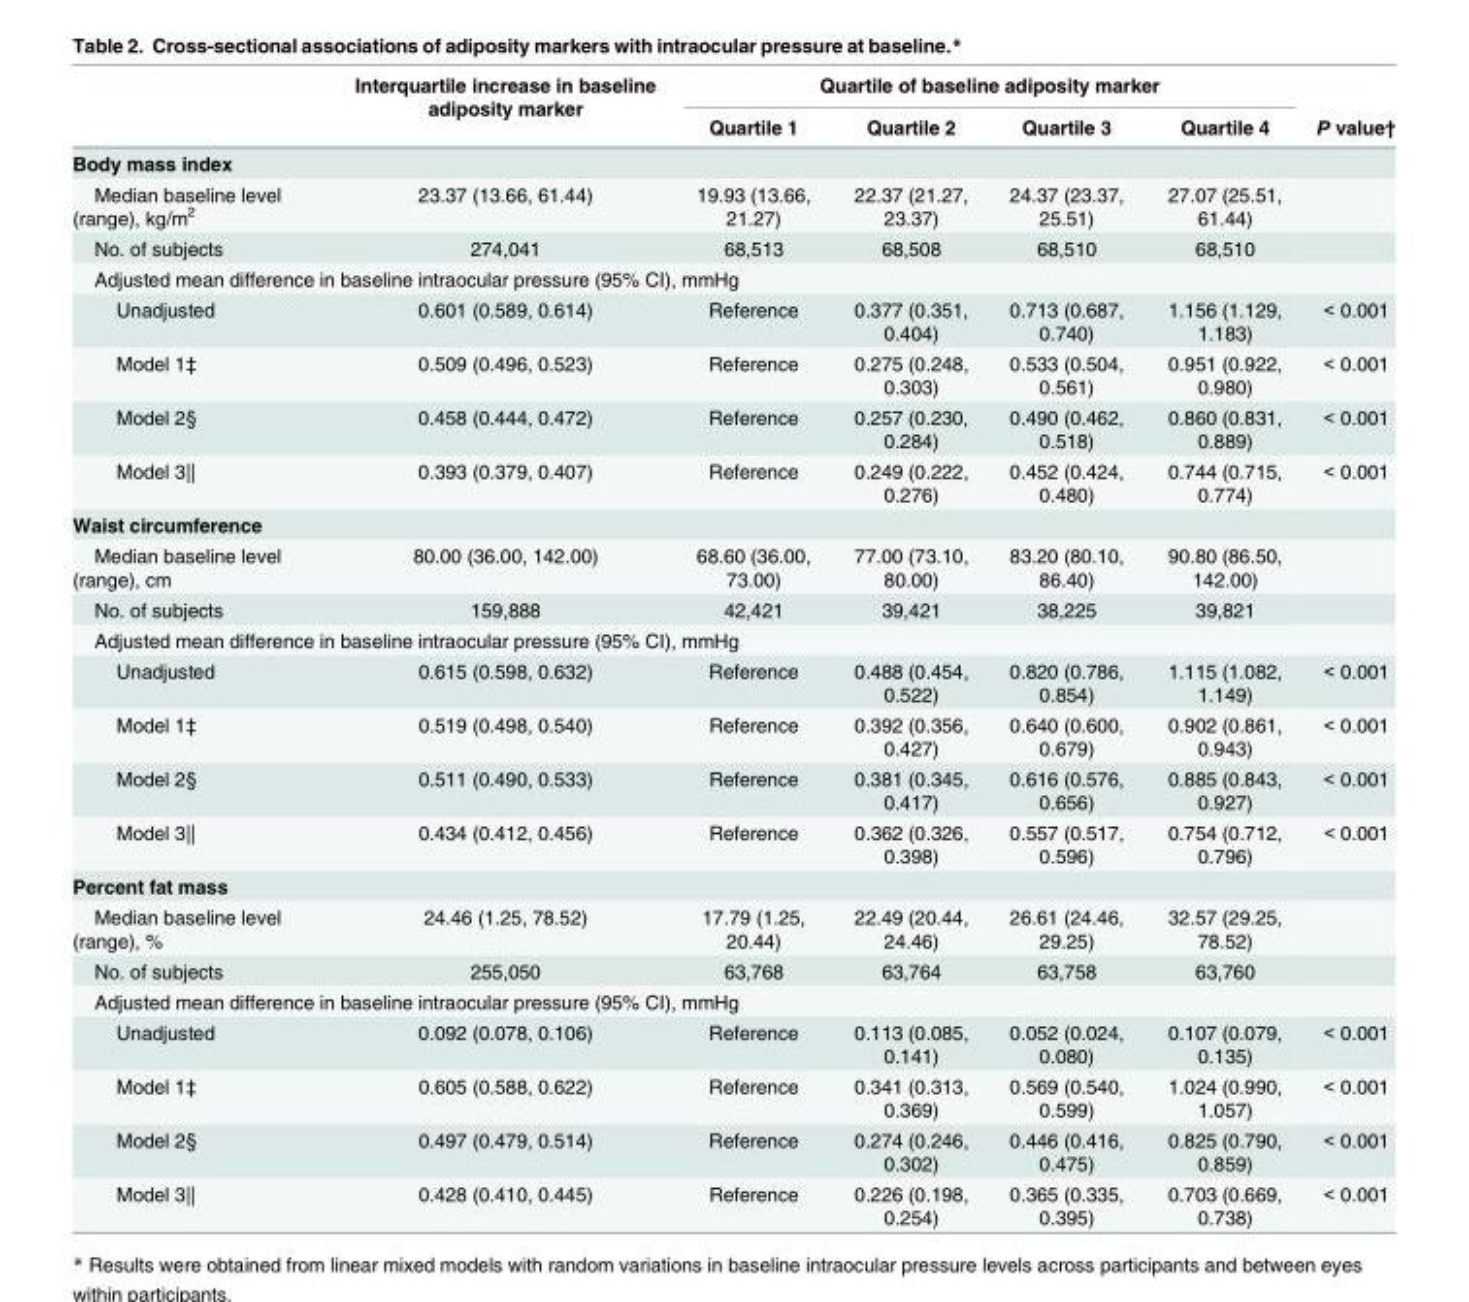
<table><thead><tr><td rowspan="2"></td><td rowspan="2">Interquartile increase in baseline adiposity marker</td><td colspan="4">Quartile of baseline adiposity marker</td><td rowspan="2">P value†</td></tr><tr><td>Quartile 1</td><td>Quartile 2</td><td>Quartile 3</td><td>Quartile 4</td></tr></thead><tbody><tr><td colspan="7">Body mass index</td></tr><tr><td>Median baseline level (range), kg/m<sup>2</sup></td><td>23.37 (13.66, 61.44)</td><td>19.93 (13.66, 21.27)</td><td>22.37 (21.27, 23.37)</td><td>24.37 (23.37, 25.51)</td><td>27.07 (25.51, 61.44)</td><td></td></tr><tr><td>No. of subjects</td><td>274,041</td><td>68,513</td><td>68,508</td><td>68,510</td><td>68,510</td><td></td></tr><tr><td colspan="7">Adjusted mean difference in baseline intraocular pressure (95% CI), mmHg</td></tr><tr><td>Unadjusted</td><td>0.601 (0.589, 0.614)</td><td>Reference</td><td>0.377 (0.351, 0.404)</td><td>0.713 (0.687, 0.740)</td><td>1.156 (1.129, 1.183)</td><td>&lt; 0.001</td></tr><tr><td>Model 1‡</td><td>0.509 (0.496, 0.523)</td><td>Reference</td><td>0.275 (0.248, 0.303)</td><td>0.533 (0.504, 0.561)</td><td>0.951 (0.922, 0.980)</td><td>&lt; 0.001</td></tr><tr><td>Model 2§</td><td>0.458 (0.444, 0.472)</td><td>Reference</td><td>0.257 (0.230, 0.284)</td><td>0.490 (0.462, 0.518)</td><td>0.860 (0.831, 0.889)</td><td>&lt; 0.001</td></tr><tr><td>Model 3||</td><td>0.393 (0.379, 0.407)</td><td>Reference</td><td>0.249 (0.222, 0.276)</td><td>0.452 (0.424, 0.480)</td><td>0.744 (0.715, 0.774)</td><td>&lt; 0.001</td></tr><tr><td colspan="7">Waist circumference</td></tr><tr><td>Median baseline level (range), cm</td><td>80.00 (36.00, 142.00)</td><td>68.60 (36.00, 73.00)</td><td>77.00 (73.10, 80.00)</td><td>83.20 (80.10, 86.40)</td><td>90.80 (86.50, 142.00)</td><td></td></tr><tr><td>No. of subjects</td><td>159,888</td><td>42,421</td><td>39,421</td><td>38,225</td><td>39,821</td><td></td></tr><tr><td colspan="7">Adjusted mean difference in baseline intraocular pressure (95% CI), mmHg</td></tr><tr><td>Unadjusted</td><td>0.615 (0.598, 0.632)</td><td>Reference</td><td>0.488 (0.454, 0.522)</td><td>0.820 (0.786, 0.854)</td><td>1.115 (1.082, 1.149)</td><td>&lt; 0.001</td></tr><tr><td>Model 1‡</td><td>0.519 (0.498, 0.540)</td><td>Reference</td><td>0.392 (0.356, 0.427)</td><td>0.640 (0.600, 0.679)</td><td>0.902 (0.861, 0.943)</td><td>&lt; 0.001</td></tr><tr><td>Model 2§</td><td>0.511 (0.490, 0.533)</td><td>Reference</td><td>0.381 (0.345, 0.417)</td><td>0.616 (0.576, 0.656)</td><td>0.885 (0.843, 0.927)</td><td>&lt; 0.001</td></tr><tr><td>Model 3||</td><td>0.434 (0.412, 0.456)</td><td>Reference</td><td>0.362 (0.326, 0.398)</td><td>0.557 (0.517, 0.596)</td><td>0.754 (0.712, 0.796)</td><td>&lt; 0.001</td></tr><tr><td colspan="7">Percent fat mass</td></tr><tr><td>Median baseline level (range), %</td><td>24.46 (1.25, 78.52)</td><td>17.79 (1.25, 20.44)</td><td>22.49 (20.44, 24.46)</td><td>26.61 (24.46, 29.25)</td><td>32.57 (29.25, 78.52)</td><td></td></tr><tr><td>No. of subjects</td><td>255,050</td><td>63,768</td><td>63,764</td><td>63,758</td><td>63,760</td><td></td></tr><tr><td colspan="7">Adjusted mean difference in baseline intraocular pressure (95% CI), mmHg</td></tr><tr><td>Unadjusted</td><td>0.092 (0.078, 0.106)</td><td>Reference</td><td>0.113 (0.085, 0.141)</td><td>0.052 (0.024, 0.080)</td><td>0.107 (0.079, 0.135)</td><td>&lt; 0.001</td></tr><tr><td>Model 1‡</td><td>0.605 (0.588, 0.622)</td><td>Reference</td><td>0.341 (0.313, 0.369)</td><td>0.569 (0.540, 0.599)</td><td>1.024 (0.990, 1.057)</td><td>&lt; 0.001</td></tr><tr><td>Model 2§</td><td>0.497 (0.479, 0.514)</td><td>Reference</td><td>0.274 (0.246, 0.302)</td><td>0.446 (0.416, 0.475)</td><td>0.825 (0.790, 0.859)</td><td>&lt; 0.001</td></tr><tr><td>Model 3||</td><td>0.428 (0.410, 0.445)</td><td>Reference</td><td>0.226 (0.198, 0.254)</td><td>0.365 (0.335, 0.395)</td><td>0.703 (0.669, 0.738)</td><td>&lt; 0.001</td></tr></tbody></table>